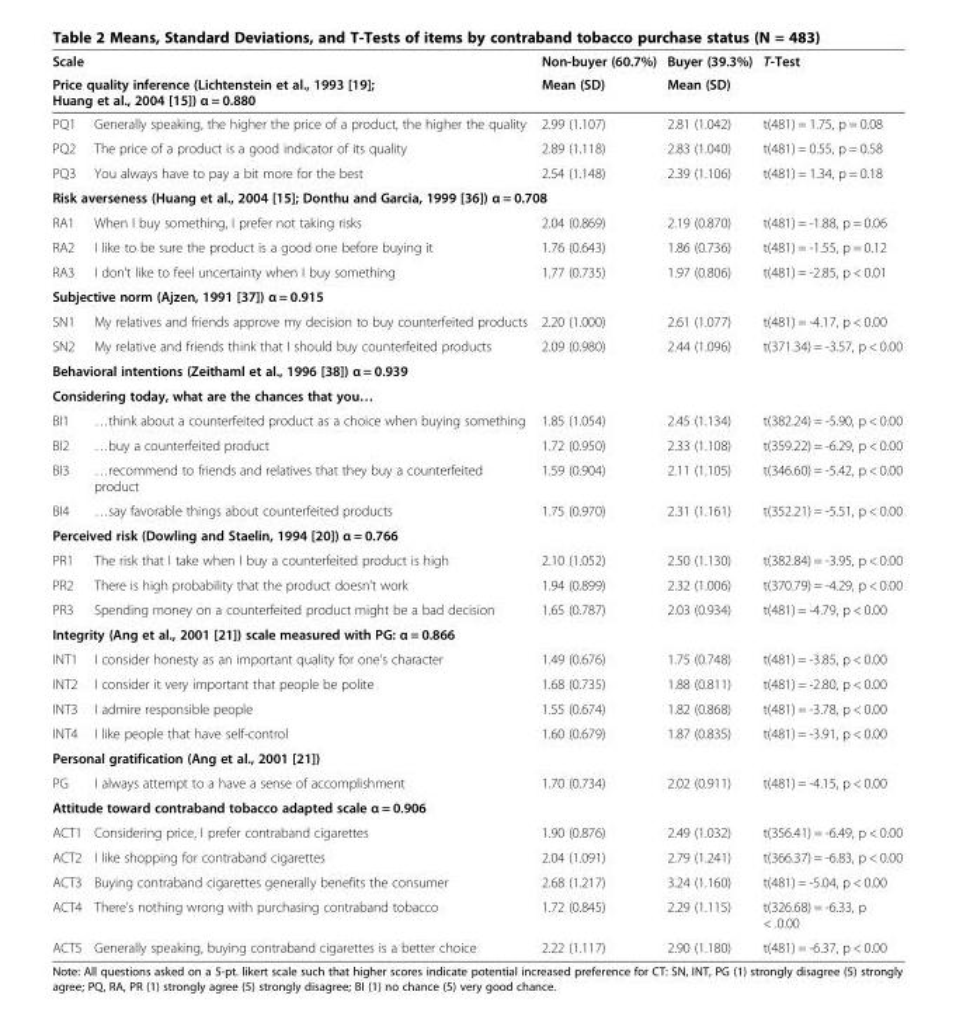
<table><thead><tr><td>Scale</td><td></td><td rowspan="2">Non-buyer (60.7%) Mean (SD)</td><td rowspan="2">Buyer (39.3%) Mean (SD)</td><td rowspan="2">T-Test</td></tr><tr><td colspan="2">Price quality inference (Lichtenstein et al., 1993 [19]; Huang et al., 2004 [15]) α = 0.880</td></tr></thead><tbody><tr><td>PQ1</td><td>Generally speaking, the higher the price of a product, the higher the quality</td><td>2.99 (1.107)</td><td>2.81 (1.042)</td><td>t(481) = 1.75, p = 0.08</td></tr><tr><td>PQ2</td><td>The price of a product is a good indicator of its quality</td><td>2.89 (1.118)</td><td>2.83 (1.040)</td><td>t(481) = 0.55, p = 0.58</td></tr><tr><td>PQ3</td><td>You always have to pay a bit more for the best</td><td>2.54 (1.148)</td><td>2.39 (1.106)</td><td>t(481) = 1.34, p = 0.18</td></tr><tr><td colspan="5">Risk averseness (Huang et al., 2004 [15]; Donthu and Garcia, 1999 [36]) α = 0.708</td></tr><tr><td>RA1</td><td>When I buy something, I prefer not taking risks</td><td>2.04 (0.869)</td><td>2.19 (0.870)</td><td>t(481) = -1.88, p = 0.06</td></tr><tr><td>RA2</td><td>I like to be sure the product is a good one before buying it</td><td>1.76 (0.643)</td><td>1.86 (0.736)</td><td>t(481) = -1.55, p = 0.12</td></tr><tr><td>RA3</td><td>I don’t like to feel uncertainty when I buy something</td><td>1.77 (0.735)</td><td>1.97 (0.806)</td><td>t(481) = -2.85, p &lt; 0.01</td></tr><tr><td colspan="5">Subjective norm (Ajzen, 1991 [37]) α = 0.915</td></tr><tr><td>SN1</td><td>My relatives and friends approve my decision to buy counterfeited products</td><td>2.20 (1.000)</td><td>2.61 (1.077)</td><td>t(481) = -4.17, p &lt; 0.00</td></tr><tr><td>SN2</td><td>My relative and friends think that I should buy counterfeited products</td><td>2.09 (0.980)</td><td>2.44 (1.096)</td><td>t(371.34) = -3.57, p &lt; 0.00</td></tr><tr><td colspan="5">Behavioral intentions (Zeithaml et al., 1996 [38]) α = 0.939</td></tr><tr><td colspan="5">Considering today, what are the chances that you…</td></tr><tr><td>BI1</td><td>…think about a counterfeited product as a choice when buying something</td><td>1.85 (1.054)</td><td>2.45 (1.134)</td><td>t(382.24) = -5.90, p &lt; 0.00</td></tr><tr><td>BI2</td><td>…buy a counterfeited product</td><td>1.72 (0.950)</td><td>2.33 (1.108)</td><td>t(359.22) = -6.29, p &lt; 0.00</td></tr><tr><td>BI3</td><td>…recommend to friends and relatives that they buy a counterfeited product</td><td>1.59 (0.904)</td><td>2.11 (1.105)</td><td>t(346.60) = -5.42, p &lt; 0.00</td></tr><tr><td>BI4</td><td>…say favorable things about counterfeited products</td><td>1.75 (0.970)</td><td>2.31 (1.161)</td><td>t(352.21) = -5.51, p &lt; 0.00</td></tr><tr><td colspan="5">Perceived risk (Dowling and Staelin, 1994 [20]) α = 0.766</td></tr><tr><td>PR1</td><td>The risk that I take when I buy a counterfeited product is high</td><td>2.10 (1.052)</td><td>2.50 (1.130)</td><td>t(382.84) = -3.95, p &lt; 0.00</td></tr><tr><td>PR2</td><td>There is high probability that the product doesn’t work</td><td>1.94 (0.899)</td><td>2.32 (1.006)</td><td>t(370.79) = -4.29, p &lt; 0.00</td></tr><tr><td>PR3</td><td>Spending money on a counterfeited product might be a bad decision</td><td>1.65 (0.787)</td><td>2.03 (0.934)</td><td>t(481) = -4.79, p &lt; 0.00</td></tr><tr><td colspan="5">Integrity (Ang et al., 2001 [21]) scale measured with PG: α = 0.866</td></tr><tr><td>INT1</td><td>I consider honesty as an important quality for one’s character</td><td>1.49 (0.676)</td><td>1.75 (0.748)</td><td>t(481) = -3.85, p &lt; 0.00</td></tr><tr><td>INT2</td><td>I consider it very important that people be polite</td><td>1.68 (0.735)</td><td>1.88 (0.811)</td><td>t(481) = -2.80, p &lt; 0.00</td></tr><tr><td>INT3</td><td>I admire responsible people</td><td>1.55 (0.674)</td><td>1.82 (0.868)</td><td>t(481) = -3.78, p &lt; 0.00</td></tr><tr><td>INT4</td><td>I like people that have self-control</td><td>1.60 (0.679)</td><td>1.87 (0.835)</td><td>t(481) = -3.91, p &lt; 0.00</td></tr><tr><td colspan="5">Personal gratification (Ang et al., 2001 [21])</td></tr><tr><td>PG</td><td>I always attempt to a have a sense of accomplishment</td><td>1.70 (0.734)</td><td>2.02 (0.911)</td><td>t(481) = -4.15, p &lt; 0.00</td></tr><tr><td colspan="5">Attitude toward contraband tobacco adapted scale α = 0.906</td></tr><tr><td>ACT1</td><td>Considering price, I prefer contraband cigarettes</td><td>1.90 (0.876)</td><td>2.49 (1.032)</td><td>t(356.41) = -6.49, p &lt; 0.00</td></tr><tr><td>ACT2</td><td>I like shopping for contraband cigarettes</td><td>2.04 (1.091)</td><td>2.79 (1.241)</td><td>t(366.37) = -6.83, p &lt; 0.00</td></tr><tr><td>ACT3</td><td>Buying contraband cigarettes generally benefits the consumer</td><td>2.68 (1.217)</td><td>3.24 (1.160)</td><td>t(481) = -5.04, p &lt; 0.00</td></tr><tr><td>ACT4</td><td>There’s nothing wrong with purchasing contraband tobacco</td><td>1.72 (0.845)</td><td>2.29 (1.115)</td><td>t(326.68) = -6.33, p &lt; .0.00</td></tr><tr><td>ACT5</td><td>Generally speaking, buying contraband cigarettes is a better choice</td><td>2.22 (1.117)</td><td>2.90 (1.180)</td><td>t(481) = -6.37, p &lt; 0.00</td></tr></tbody></table>